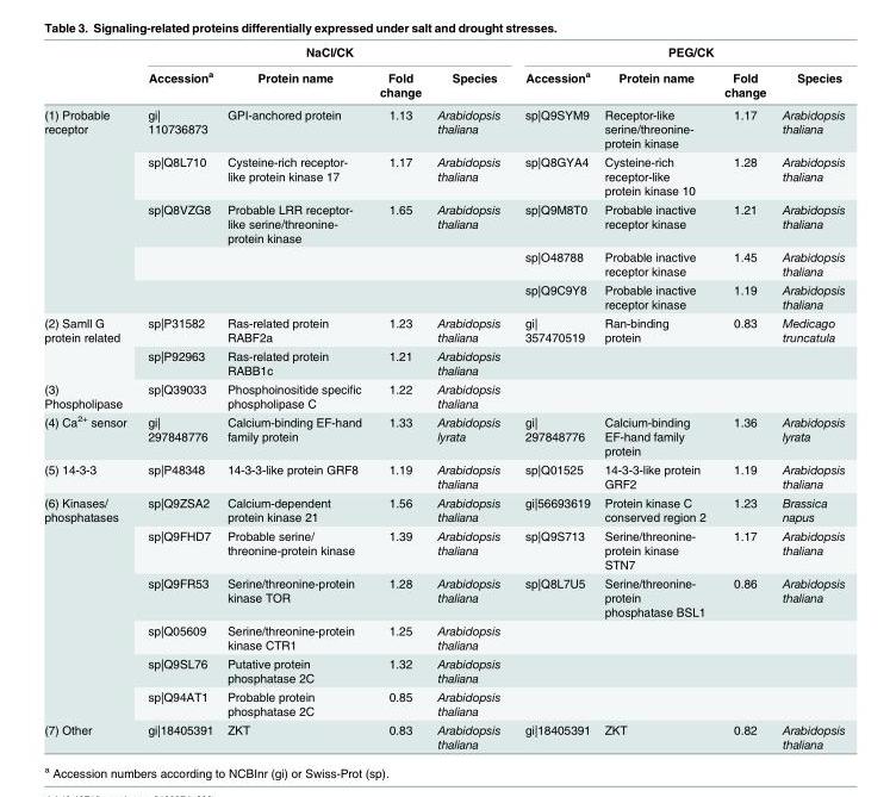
<table><thead><tr><td rowspan="2"></td><td colspan="4">NaCl/CK</td><td colspan="4">PEG/CK</td></tr><tr><td>Accession<sup>a</sup></td><td>Protein name</td><td>Fold change</td><td>Species</td><td>Accession<sup>a</sup></td><td>Protein name</td><td>Fold change</td><td>Species</td></tr></thead><tbody><tr><td rowspan="5">(1) Probable receptor</td><td>gi| 110736873</td><td>GPI-anchored protein</td><td>1.13</td><td>Arabidopsis thaliana</td><td>sp|Q9SYM9</td><td>Receptor-like serine/threonine- protein kinase</td><td>1.17</td><td>Arabidopsis thaliana</td></tr><tr><td>sp|Q8L710</td><td>Cysteine-rich receptor- like protein kinase 17</td><td>1.17</td><td>Arabidopsis thaliana</td><td>sp|Q8GYA4</td><td>Cysteine-rich receptor-like protein kinase 10</td><td>1.28</td><td>Arabidopsis thaliana</td></tr><tr><td>sp|Q8VZG8</td><td>Probable LRR receptor- like serine/threonine- protein kinase</td><td>1.65</td><td>Arabidopsis thaliana</td><td>sp|Q9M8T0</td><td>Probable inactive receptor kinase</td><td>1.21</td><td>Arabidopsis thaliana</td></tr><tr><td></td><td></td><td></td><td></td><td>sp|O48788</td><td>Probable inactive receptor kinase</td><td>1.45</td><td>Arabidopsis thaliana</td></tr><tr><td></td><td></td><td></td><td></td><td>sp|Q9C9Y8</td><td>Probable inactive receptor kinase</td><td>1.19</td><td>Arabidopsis thaliana</td></tr><tr><td rowspan="2">(2) Samll G protein related</td><td>sp|P31582</td><td>Ras-related protein RABF2a</td><td>1.23</td><td>Arabidopsis thaliana</td><td>gi| 357470519</td><td>Ran-binding protein</td><td>0.83</td><td>Medicago truncatula</td></tr><tr><td>sp|P92963</td><td>Ras-related protein RABB1c</td><td>1.21</td><td>Arabidopsis thaliana</td><td></td><td></td><td></td><td></td></tr><tr><td>(3) Phospholipase</td><td>sp|Q39033</td><td>Phosphoinositide specific phospholipase C</td><td>1.22</td><td>Arabidopsis thaliana</td><td></td><td></td><td></td><td></td></tr><tr><td>(4) Ca<sup>2+</sup> sensor</td><td>gi| 297848776</td><td>Calcium-binding EF-hand family protein</td><td>1.33</td><td>Arabidopsis lyrata</td><td>gi| 297848776</td><td>Calcium-binding EF-hand family protein</td><td>1.36</td><td>Arabidopsis lyrata</td></tr><tr><td>(5) 14-3-3</td><td>sp|P48348</td><td>14-3-3-like protein GRF8</td><td>1.19</td><td>Arabidopsis thaliana</td><td>sp|Q01525</td><td>14-3-3-like protein GRF2</td><td>1.19</td><td>Arabidopsis thaliana</td></tr><tr><td rowspan="6">(6) Kinases/ phosphatases</td><td>sp|Q9ZSA2</td><td>Calcium-dependent protein kinase 21</td><td>1.56</td><td>Arabidopsis thaliana</td><td>gi|56693619</td><td>Protein kinase C conserved region 2</td><td>1.23</td><td>Brassica napus</td></tr><tr><td>sp|Q9FHD7</td><td>Probable serine/ threonine-protein kinase</td><td>1.39</td><td>Arabidopsis thaliana</td><td>sp|Q9S713</td><td>Serine/threonine- protein kinase STN7</td><td>1.17</td><td>Arabidopsis thaliana</td></tr><tr><td>sp|Q9FR53</td><td>Serine/threonine-protein kinase TOR</td><td>1.28</td><td>Arabidopsis thaliana</td><td>sp|Q8L7U5</td><td>Serine/threonine- protein phosphatase BSL1</td><td>0.86</td><td>Arabidopsis thaliana</td></tr><tr><td>sp|Q05609</td><td>Serine/threonine-protein kinase CTR1</td><td>1.25</td><td>Arabidopsis thaliana</td><td></td><td></td><td></td><td></td></tr><tr><td>sp|Q9SL76</td><td>Putative protein phosphatase 2C</td><td>1.32</td><td>Arabidopsis thaliana</td><td></td><td></td><td></td><td></td></tr><tr><td>sp|Q94AT1</td><td>Probable protein phosphatase 2C</td><td>0.85</td><td>Arabidopsis thaliana</td><td></td><td></td><td></td><td></td></tr><tr><td>(7) Other</td><td>gi|18405391</td><td>ZKT</td><td>0.83</td><td>Arabidopsis thaliana</td><td>gi|18405391</td><td>ZKT</td><td>0.82</td><td>Arabidopsis thaliana</td></tr></tbody></table>